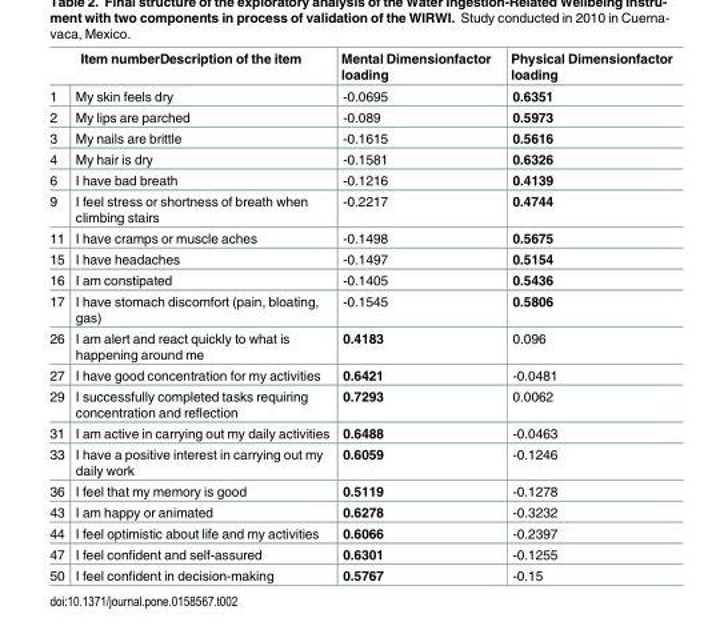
<table><thead><tr><td colspan="2">Item numberDescription of the item</td><td rowspan="2">Mental Dimensionfactor loading -0.0695</td><td rowspan="2">Physical Dimensionfactor loading 0.6351</td></tr><tr><td>1</td><td>My skin feels dry</td></tr></thead><tbody><tr><td>2</td><td>My lips are parched</td><td>-0.089</td><td>0.5973</td></tr><tr><td>3</td><td>My nails are brittle</td><td>-0.1615</td><td>0.5616</td></tr><tr><td>4</td><td>My hair is dry</td><td>-0.1581</td><td>0.6326</td></tr><tr><td>6</td><td>I have bad breath</td><td>-0.1216</td><td>0.4139</td></tr><tr><td>9</td><td>I feel stress or shortness of breath when climbing stairs</td><td>-0.2217</td><td>0.4744</td></tr><tr><td>11</td><td>I have cramps or muscle aches</td><td>-0.1498</td><td>0.5675</td></tr><tr><td>15</td><td>I have headaches</td><td>-0.1497</td><td>0.5154</td></tr><tr><td>16</td><td>I am constipated</td><td>-0.1405</td><td>0.5436</td></tr><tr><td>17</td><td>I have stomach discomfort (pain, bloating, gas)</td><td>-0.1545</td><td>0.5806</td></tr><tr><td>26</td><td>I am alert and react quickly to what is happening around me</td><td>0.4183</td><td>0.096</td></tr><tr><td>27</td><td>I have good concentration for my activities</td><td>0.6421</td><td>-0.0481</td></tr><tr><td>29</td><td>I successfully completed tasks requiring concentration and reflection</td><td>0.7293</td><td>0.0062</td></tr><tr><td>31</td><td>I am active in carrying out my daily activities</td><td>0.6488</td><td>-0.0463</td></tr><tr><td>33</td><td>I have a positive interest in carrying out my daily work</td><td>0.6059</td><td>-0.1246</td></tr><tr><td>36</td><td>I feel that my memory is good</td><td>0.5119</td><td>-0.1278</td></tr><tr><td>43</td><td>I am happy or animated</td><td>0.6278</td><td>-0.3232</td></tr><tr><td>44</td><td>I feel optimistic about life and my activities</td><td>0.6066</td><td>-0.2397</td></tr><tr><td>47</td><td>I feel confident and self-assured</td><td>0.6301</td><td>-0.1255</td></tr><tr><td>50</td><td>I feel confident in decision-making</td><td>0.5767</td><td>-0.15</td></tr></tbody></table>